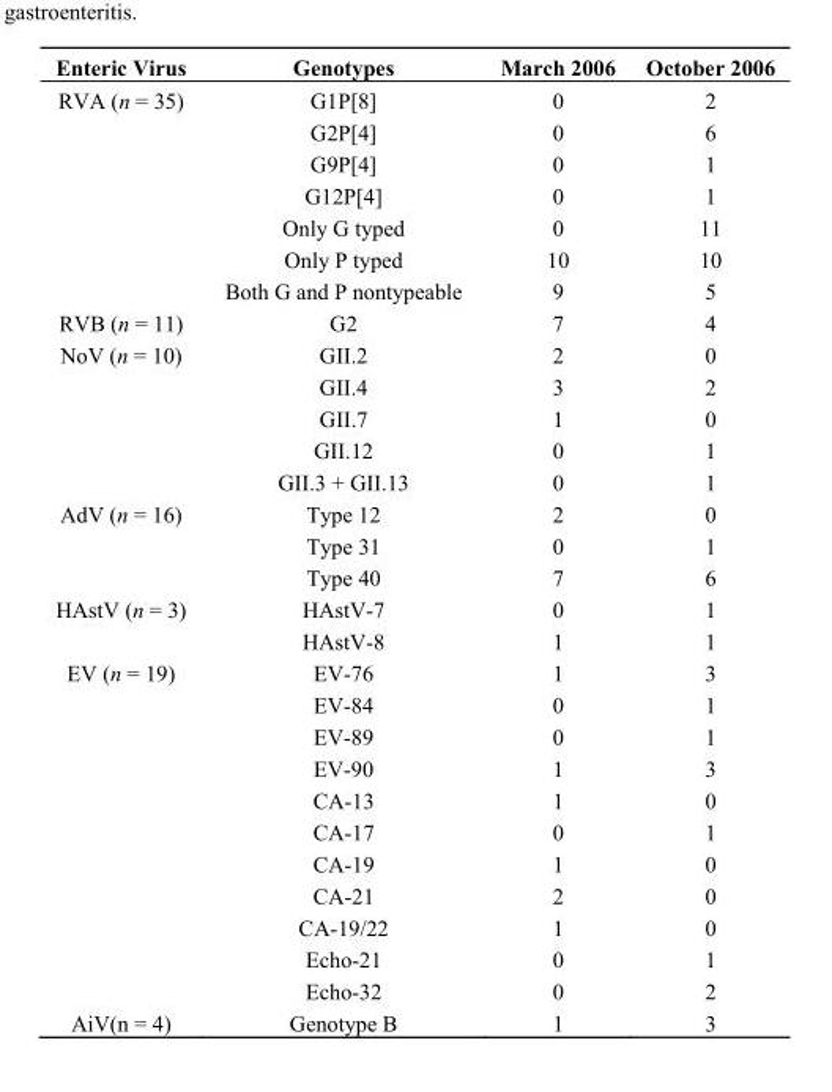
<table><thead><tr><td>Enteric Virus</td><td>Genotypes</td><td>March 2006</td><td>October 2006</td></tr></thead><tbody><tr><td rowspan="7">RVA (n = 35)</td><td>G1P[8]</td><td>0</td><td>2</td></tr><tr><td>G2P[4]</td><td>0</td><td>6</td></tr><tr><td>G9P[4]</td><td>0</td><td>1</td></tr><tr><td>G12P[4]</td><td>0</td><td>1</td></tr><tr><td>Only G typed</td><td>0</td><td>11</td></tr><tr><td>Only P typed</td><td>10</td><td>10</td></tr><tr><td>Both G and P nontypeable</td><td>9</td><td>5</td></tr><tr><td>RVB (n = 11)</td><td>G2</td><td>7</td><td>4</td></tr><tr><td rowspan="5">NoV (n = 10)</td><td>GII.2</td><td>2</td><td>0</td></tr><tr><td>GII.4</td><td>3</td><td>2</td></tr><tr><td>GII.7</td><td>1</td><td>0</td></tr><tr><td>GII.12</td><td>0</td><td>1</td></tr><tr><td>GII.3 + GII.13</td><td>0</td><td>1</td></tr><tr><td rowspan="3">AdV (n = 16)</td><td>Type 12</td><td>2</td><td>0</td></tr><tr><td>Type 31</td><td>0</td><td>1</td></tr><tr><td>Type 40</td><td>7</td><td>6</td></tr><tr><td rowspan="2">HAstV (n = 3)</td><td>HAstV-7</td><td>0</td><td>1</td></tr><tr><td>HAstV-8</td><td>1</td><td>1</td></tr><tr><td rowspan="11">EV (n = 19)</td><td>EV-76</td><td>1</td><td>3</td></tr><tr><td>EV-84</td><td>0</td><td>1</td></tr><tr><td>EV-89</td><td>0</td><td>1</td></tr><tr><td>EV-90</td><td>1</td><td>3</td></tr><tr><td>CA-13</td><td>1</td><td>0</td></tr><tr><td>CA-17</td><td>0</td><td>1</td></tr><tr><td>CA-19</td><td>1</td><td>0</td></tr><tr><td>CA-21</td><td>2</td><td>0</td></tr><tr><td>CA-19/22</td><td>1</td><td>0</td></tr><tr><td>Echo-21</td><td>0</td><td>1</td></tr><tr><td>Echo-32</td><td>0</td><td>2</td></tr><tr><td>AiV(n = 4)</td><td>Genotype B</td><td>1</td><td>3</td></tr></tbody></table>